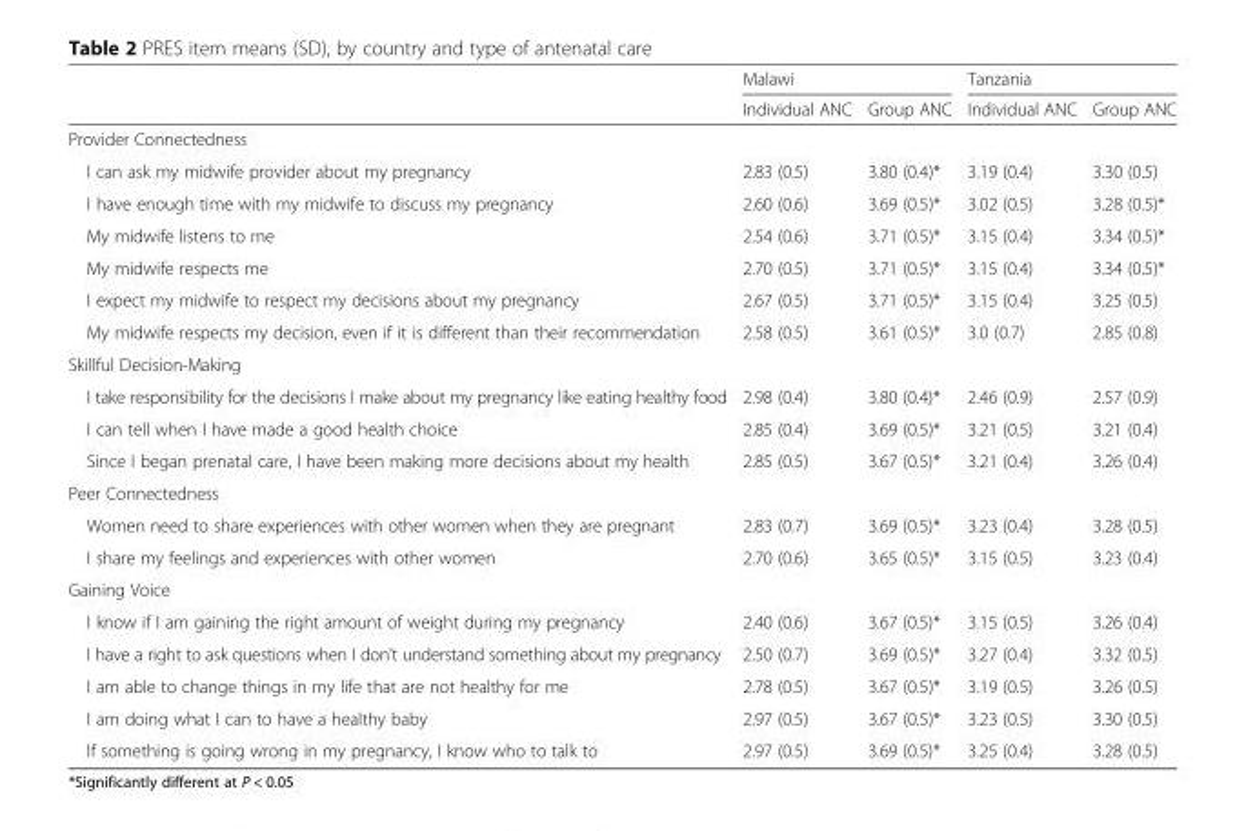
<table><thead><tr><td rowspan="2"></td><td colspan="2">Malawi</td><td colspan="2">Tanzania</td></tr><tr><td>Individual ANC</td><td>Group ANC</td><td>Individual ANC</td><td>Group ANC</td></tr></thead><tbody><tr><td colspan="5">Provider Connectedness</td></tr><tr><td>I can ask my midwife provider about my pregnancy</td><td>2.83 (0.5)</td><td>3.80 (0.4)*</td><td>3.19 (0.4)</td><td>3.30 (0.5)</td></tr><tr><td>I have enough time with my midwife to discuss my pregnancy</td><td>2.60 (0.6)</td><td>3.69 (0.5)*</td><td>3.02 (0.5)</td><td>3.28 (0.5)*</td></tr><tr><td>My midwife listens to me</td><td>2.54 (0.6)</td><td>3.71 (0.5)*</td><td>3.15 (0.4)</td><td>3.34 (0.5)*</td></tr><tr><td>My midwife respects me</td><td>2.70 (0.5)</td><td>3.71 (0.5)*</td><td>3.15 (0.4)</td><td>3.34 (0.5)*</td></tr><tr><td>I expect my midwife to respect my decisions about my pregnancy</td><td>2.67 (0.5)</td><td>3.71 (0.5)*</td><td>3.15 (0.4)</td><td>3.25 (0.5)</td></tr><tr><td>My midwife respects my decision, even if it is different than their recommendation</td><td>2.58 (0.5)</td><td>3.61 (0.5)*</td><td>3.0 (0.7)</td><td>2.85 (0.8)</td></tr><tr><td colspan="5">Skillful Decision-Making</td></tr><tr><td>I take responsibility for the decisions I make about my pregnancy like eating healthy food</td><td>2.98 (0.4)</td><td>3.80 (0.4)*</td><td>2.46 (0.9)</td><td>2.57 (0.9)</td></tr><tr><td>I can tell when I have made a good health choice</td><td>2.85 (0.4)</td><td>3.69 (0.5)*</td><td>3.21 (0.5)</td><td>3.21 (0.4)</td></tr><tr><td>Since I began prenatal care, I have been making more decisions about my health</td><td>2.85 (0.5)</td><td>3.67 (0.5)*</td><td>3.21 (0.4)</td><td>3.26 (0.4)</td></tr><tr><td colspan="5">Peer Connectedness</td></tr><tr><td>Women need to share experiences with other women when they are pregnant</td><td>2.83 (0.7)</td><td>3.69 (0.5)*</td><td>3.23 (0.4)</td><td>3.28 (0.5)</td></tr><tr><td>I share my feelings and experiences with other women</td><td>2.70 (0.6)</td><td>3.65 (0.5)*</td><td>3.15 (0.5)</td><td>3.23 (0.4)</td></tr><tr><td colspan="5">Gaining Voice</td></tr><tr><td>I know if I am gaining the right amount of weight during my pregnancy</td><td>2.40 (0.6)</td><td>3.67 (0.5)*</td><td>3.15 (0.5)</td><td>3.26 (0.4)</td></tr><tr><td>I have a right to ask questions when I don’t understand something about my pregnancy</td><td>2.50 (0.7)</td><td>3.69 (0.5)*</td><td>3.27 (0.4)</td><td>3.32 (0.5)</td></tr><tr><td>I am able to change things in my life that are not healthy for me</td><td>2.78 (0.5)</td><td>3.67 (0.5)*</td><td>3.19 (0.5)</td><td>3.26 (0.5)</td></tr><tr><td>I am doing what I can to have a healthy baby</td><td>2.97 (0.5)</td><td>3.67 (0.5)*</td><td>3.23 (0.5)</td><td>3.30 (0.5)</td></tr><tr><td>If something is going wrong in my pregnancy, I know who to talk to</td><td>2.97 (0.5)</td><td>3.69 (0.5)*</td><td>3.25 (0.4)</td><td>3.28 (0.5)</td></tr></tbody></table>